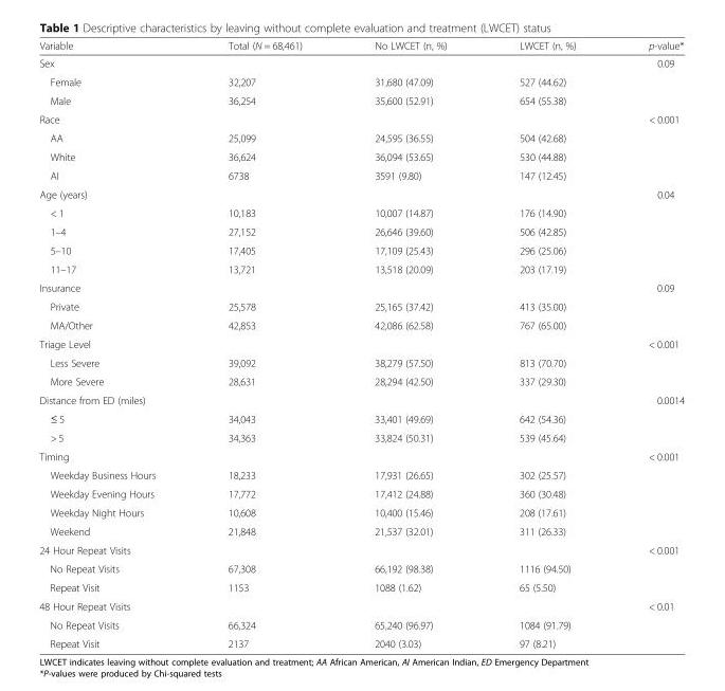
<table><thead><tr><td>Variable</td><td>Total (N = 68,461)</td><td>No LWCET (n, %)</td><td>LWCET (n, %)</td><td>p-value*</td></tr></thead><tbody><tr><td colspan="4">Sex</td><td>0.09</td></tr><tr><td>Female</td><td>32,207</td><td>31,680 (47.09)</td><td>527 (44.62)</td><td></td></tr><tr><td>Male</td><td>36,254</td><td>35,600 (52.91)</td><td>654 (55.38)</td><td></td></tr><tr><td colspan="4">Race</td><td>&lt; 0.001</td></tr><tr><td>AA</td><td>25,099</td><td>24,595 (36.55)</td><td>504 (42.68)</td><td></td></tr><tr><td>White</td><td>36,624</td><td>36,094 (53.65)</td><td>530 (44.88)</td><td></td></tr><tr><td>AI</td><td>6738</td><td>3591 (9.80)</td><td>147 (12.45)</td><td></td></tr><tr><td colspan="4">Age (years)</td><td>0.04</td></tr><tr><td>&lt; 1</td><td>10,183</td><td>10,007 (14.87)</td><td>176 (14.90)</td><td></td></tr><tr><td>1–4</td><td>27,152</td><td>26,646 (39.60)</td><td>506 (42.85)</td><td></td></tr><tr><td>5–10</td><td>17,405</td><td>17,109 (25.43)</td><td>296 (25.06)</td><td></td></tr><tr><td>11–17</td><td>13,721</td><td>13,518 (20.09)</td><td>203 (17.19)</td><td></td></tr><tr><td colspan="4">Insurance</td><td>0.09</td></tr><tr><td>Private</td><td>25,578</td><td>25,165 (37.42)</td><td>413 (35.00)</td><td></td></tr><tr><td>MA/Other</td><td>42,853</td><td>42,086 (62.58)</td><td>767 (65.00)</td><td></td></tr><tr><td colspan="4">Triage Level</td><td>&lt; 0.001</td></tr><tr><td>Less Severe</td><td>39,092</td><td>38,279 (57.50)</td><td>813 (70.70)</td><td></td></tr><tr><td>More Severe</td><td>28,631</td><td>28,294 (42.50)</td><td>337 (29.30)</td><td></td></tr><tr><td colspan="4">Distance from ED (miles)</td><td>0.0014</td></tr><tr><td>≤ 5</td><td>34,043</td><td>33,401 (49.69)</td><td>642 (54.36)</td><td></td></tr><tr><td>&gt; 5</td><td>34,363</td><td>33,824 (50.31)</td><td>539 (45.64)</td><td></td></tr><tr><td colspan="4">Timing</td><td>&lt; 0.001</td></tr><tr><td>Weekday Business Hours</td><td>18,233</td><td>17,931 (26.65)</td><td>302 (25.57)</td><td></td></tr><tr><td>Weekday Evening Hours</td><td>17,772</td><td>17,412 (24.88)</td><td>360 (30.48)</td><td></td></tr><tr><td>Weekday Night Hours</td><td>10,608</td><td>10,400 (15.46)</td><td>208 (17.61)</td><td></td></tr><tr><td>Weekend</td><td>21,848</td><td>21,537 (32.01)</td><td>311 (26.33)</td><td></td></tr><tr><td colspan="4">24 Hour Repeat Visits</td><td>&lt; 0.001</td></tr><tr><td>No Repeat Visits</td><td>67,308</td><td>66,192 (98.38)</td><td>1116 (94.50)</td><td></td></tr><tr><td>Repeat Visit</td><td>1153</td><td>1088 (1.62)</td><td>65 (5.50)</td><td></td></tr><tr><td colspan="4">48 Hour Repeat Visits</td><td>&lt; 0.01</td></tr><tr><td>No Repeat Visits</td><td>66,324</td><td>65,240 (96.97)</td><td>1084 (91.79)</td><td></td></tr><tr><td>Repeat Visit</td><td>2137</td><td>2040 (3.03)</td><td>97 (8.21)</td><td></td></tr></tbody></table>